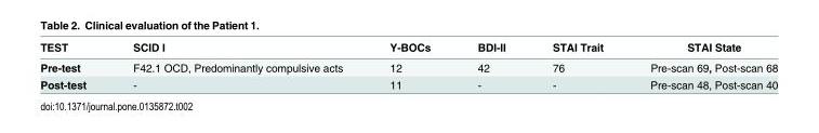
<table><thead><tr><td>TEST</td><td>SCID I</td><td>Y-BOCs</td><td>BDI-II</td><td>STAI Trait</td><td>STAI State</td></tr></thead><tbody><tr><td>Pre-test</td><td>F42.1 OCD, Predominantly compulsive acts</td><td>12</td><td>42</td><td>76</td><td>Pre-scan 69, Post-scan 68</td></tr><tr><td>Post-test</td><td>-</td><td>11</td><td>-</td><td>-</td><td>Pre-scan 48, Post-scan 40</td></tr></tbody></table>